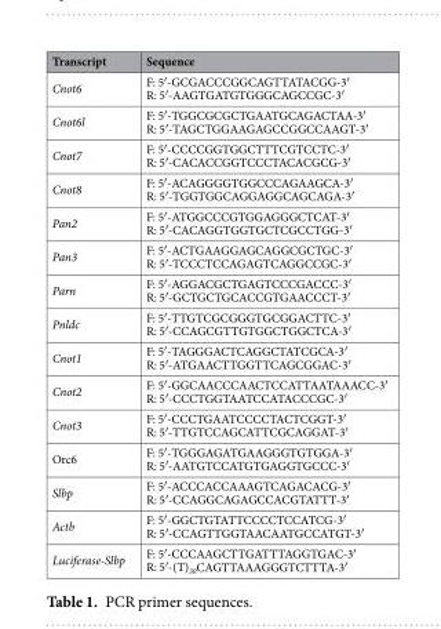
<table><thead><tr><td>Transcript</td><td>Sequence</td></tr></thead><tbody><tr><td>Cnot6</td><td>F: 5′-GCGACCCGGCAGTTATACGG-3′ R: 5′-AAGTGATGTGGGCAGCCGC-3′</td></tr><tr><td>Cnot6l</td><td>F: 5′-TGGCGCGCTGAATGCAGACTAA-3′ R: 5′-TAGCTGGAAGAGCCGGCCAAGT-3′</td></tr><tr><td>Cnot7</td><td>F: 5′-CCCCGGTGGCTTTCGTCCTC-3′ R: 5′-CACACCGGTCCCTACACGCG-3′</td></tr><tr><td>Cnot8</td><td>F: 5′-ACAGGGGTGGCCCAGAAGCA-3′ R: 5′-TGGTGGCAGGAGGCAGCAGA-3′</td></tr><tr><td>Pan2</td><td>F: 5′-ATGGCCCGTGGAGGGCTCAT-3′ R: 5′-CACAGGTGGTGCTCGCCTGG-3′</td></tr><tr><td>Pan3</td><td>F: 5′-ACTGAAGGAGCAGGCGCTGC-3′ R: 5′-TCCCTCCAGAGTCAGGCCGC-3′</td></tr><tr><td>Parn</td><td>F: 5′-AGGACGCTGAGTCCCGACCC-3′ R: 5′-GCTGCTGCACCGTGAACCCT-3′</td></tr><tr><td>Pnldc</td><td>F: 5′-TTGTCGCGGGTGCGGACTTC-3′ R: 5′-CCAGCGTTGTGGCTGGCTCA-3′</td></tr><tr><td>Cnot1</td><td>F: 5′-TAGGGACTCAGGCTATCGCA-3′ R: 5′-ATGAACTTGGTTCAGCGGAC-3′</td></tr><tr><td>Cnot2</td><td>F: 5′-GGCAACCCAACTCCATTAATAAACC-3′ R: 5′-CCCTGGTAATCCATACCCGC-3′</td></tr><tr><td>Cnot3</td><td>F: 5′-CCCTGAATCCCCTACTCGGT-3′ R: 5′-TTGTCCAGCATTCGCAGGAT-3′</td></tr><tr><td>Orc6</td><td>F: 5′-TGGGAGATGAAGGGTGTGGA-3′ R: 5′-AATGTCCATGTGAGGTGCCC-3′</td></tr><tr><td>Slbp</td><td>F: 5′-ACCCACCAAAGTCAGACACG-3′ R: 5′-CCAGGCAGAGCCACGTATTT-3′</td></tr><tr><td>Actb</td><td>F: 5′-GGCTGTATTCCCCTCCATCG-3′ R: 5′-CCAGTTGGTAACAATGCCATGT-3′</td></tr><tr><td>Luciferase-Slbp</td><td>F: 5′-CCCAAGCTTGATTTAGGTGAC-3′ R: 5′-(T)<sub>30</sub>CAGTTAAAGGGTCTTTA-3′</td></tr></tbody></table>